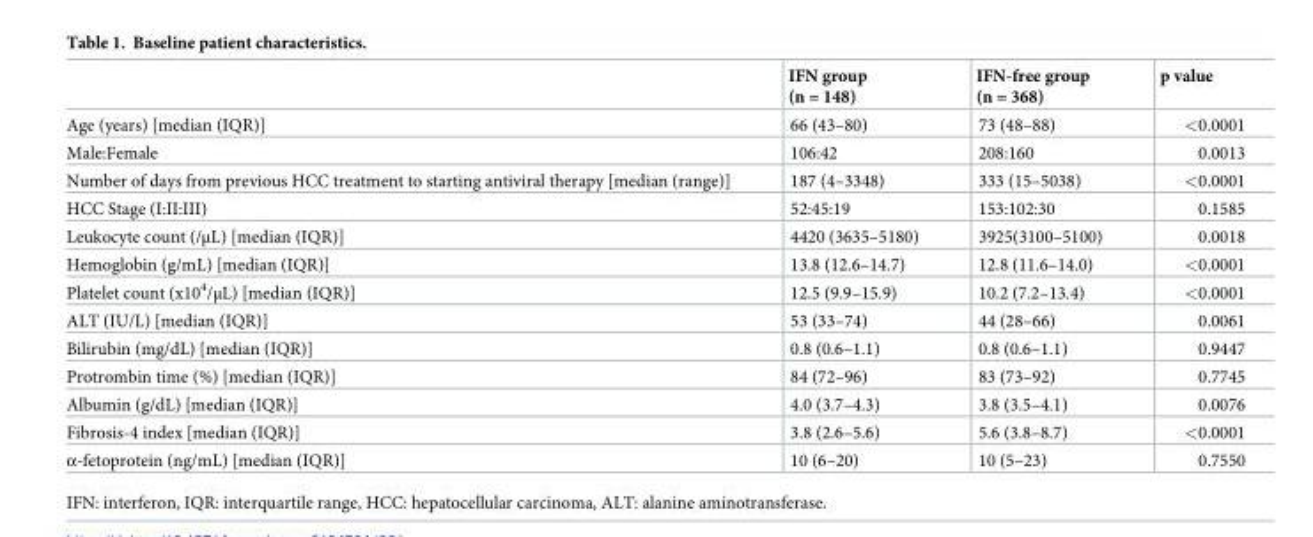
<table><thead><tr><td></td><td>IFN group (n = 148)</td><td>IFN-free group (n = 368)</td><td>p value</td></tr></thead><tbody><tr><td>Age (years) [median (IQR)]</td><td>66 (43–80)</td><td>73 (48–88)</td><td>&lt;0.0001</td></tr><tr><td>Male:Female</td><td>106:42</td><td>208:160</td><td>0.0013</td></tr><tr><td>Number of days from previous HCC treatment to starting antiviral therapy [median (range)]</td><td>187 (4–3348)</td><td>333 (15–5038)</td><td>&lt;0.0001</td></tr><tr><td>HCC Stage (I:II:III)</td><td>52:45:19</td><td>153:102:30</td><td>0.1585</td></tr><tr><td>Leukocyte count (/μL) [median (IQR)]</td><td>4420 (3635–5180)</td><td>3925(3100–5100)</td><td>0.0018</td></tr><tr><td>Hemoglobin (g/mL) [median (IQR)]</td><td>13.8 (12.6–14.7)</td><td>12.8 (11.6–14.0)</td><td>&lt;0.0001</td></tr><tr><td>Platelet count (x10<sup>4</sup>/μL) [median (IQR)]</td><td>12.5 (9.9–15.9)</td><td>10.2 (7.2–13.4)</td><td>&lt;0.0001</td></tr><tr><td>ALT (IU/L) [median (IQR)]</td><td>53 (33–74)</td><td>44 (28–66)</td><td>0.0061</td></tr><tr><td>Bilirubin (mg/dL) [median (IQR)]</td><td>0.8 (0.6–1.1)</td><td>0.8 (0.6–1.1)</td><td>0.9447</td></tr><tr><td>Protrombin time (%) [median (IQR)]</td><td>84 (72–96)</td><td>83 (73–92)</td><td>0.7745</td></tr><tr><td>Albumin (g/dL) [median (IQR)]</td><td>4.0 (3.7–4.3)</td><td>3.8 (3.5–4.1)</td><td>0.0076</td></tr><tr><td>Fibrosis-4 index [median (IQR)]</td><td>3.8 (2.6–5.6)</td><td>5.6 (3.8–8.7)</td><td>&lt;0.0001</td></tr><tr><td>α-fetoprotein (ng/mL) [median (IQR)]</td><td>10 (6–20)</td><td>10 (5–23)</td><td>0.7550</td></tr></tbody></table>